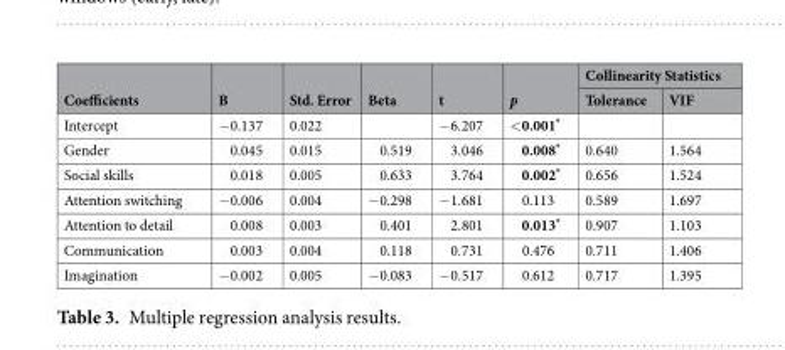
<table><thead><tr><td rowspan="2">Coefficients</td><td rowspan="2">B</td><td rowspan="2">Std. Error</td><td rowspan="2">Beta</td><td rowspan="2">t</td><td rowspan="2">p</td><td colspan="2">Collinearity Statistics</td></tr><tr><td>Tolerance</td><td>VIF</td></tr></thead><tbody><tr><td>Intercept</td><td>−0.137</td><td>0.022</td><td></td><td>−6.207</td><td>&lt;0.001*</td><td></td><td></td></tr><tr><td>Gender</td><td>0.045</td><td>0.015</td><td>0.519</td><td>3.046</td><td>0.008*</td><td>0.640</td><td>1.564</td></tr><tr><td>Social skills</td><td>0.018</td><td>0.005</td><td>0.633</td><td>3.764</td><td>0.002*</td><td>0.656</td><td>1.524</td></tr><tr><td>Attention switching</td><td>−0.006</td><td>0.004</td><td>−0.298</td><td>−1.681</td><td>0.113</td><td>0.589</td><td>1.697</td></tr><tr><td>Attention to detail</td><td>0.008</td><td>0.003</td><td>0.401</td><td>2.801</td><td>0.013*</td><td>0.907</td><td>1.103</td></tr><tr><td>Communication</td><td>0.003</td><td>0.004</td><td>0.118</td><td>0.731</td><td>0.476</td><td>0.711</td><td>1.406</td></tr><tr><td>Imagination</td><td>−0.002</td><td>0.005</td><td>−0.083</td><td>−0.517</td><td>0.612</td><td>0.717</td><td>1.395</td></tr></tbody></table>